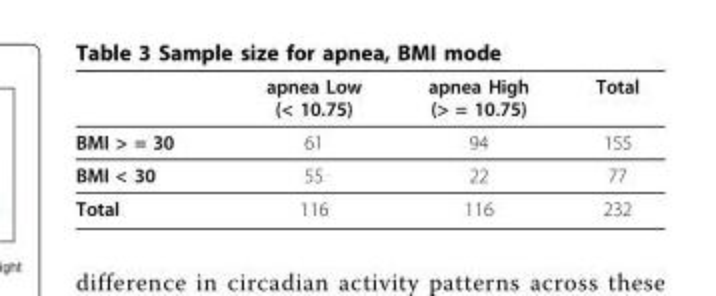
<table><thead><tr><td></td><td>apnea Low (&lt; 10.75)</td><td>apnea High (&gt; = 10.75)</td><td>Total</td></tr></thead><tbody><tr><td>BMI &gt; = 30</td><td>61</td><td>94</td><td>155</td></tr><tr><td>BMI &lt; 30</td><td>55</td><td>22</td><td>77</td></tr><tr><td>Total</td><td>116</td><td>116</td><td>232</td></tr></tbody></table>